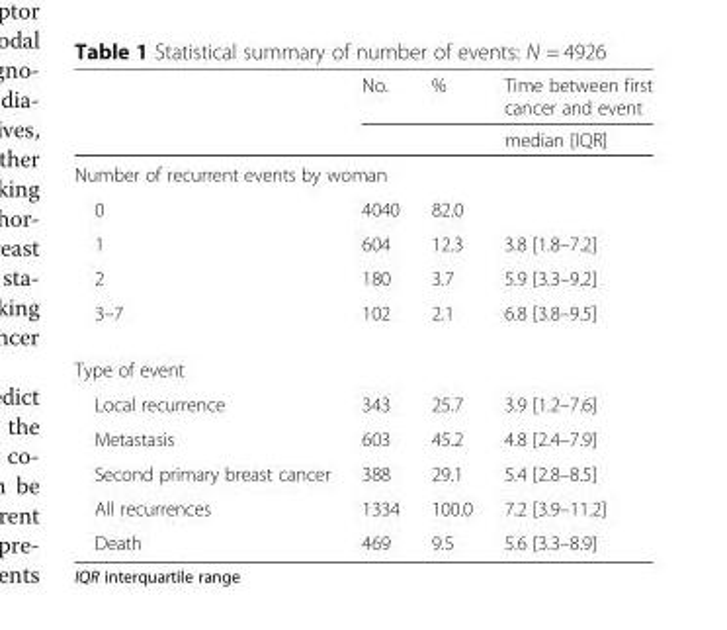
<table><thead><tr><td></td><td>No.</td><td>%</td><td>Time between first cancer and event</td></tr></thead><tbody><tr><td></td><td></td><td></td><td>median [IQR]</td></tr><tr><td colspan="4">Number of recurrent events by woman</td></tr><tr><td>0</td><td>4040</td><td>82.0</td><td></td></tr><tr><td>1</td><td>604</td><td>12.3</td><td>3.8 [1.8–7.2]</td></tr><tr><td>2</td><td>180</td><td>3.7</td><td>5.9 [3.3–9.2]</td></tr><tr><td>3–7</td><td>102</td><td>2.1</td><td>6.8 [3.8–9.5]</td></tr><tr><td colspan="4">Type of event</td></tr><tr><td>Local recurrence</td><td>343</td><td>25.7</td><td>3.9 [1.2–7.6]</td></tr><tr><td>Metastasis</td><td>603</td><td>45.2</td><td>4.8 [2.4–7.9]</td></tr><tr><td>Second primary breast cancer</td><td>388</td><td>29.1</td><td>5.4 [2.8–8.5]</td></tr><tr><td>All recurrences</td><td>1334</td><td>100.0</td><td>7.2 [3.9–11.2]</td></tr><tr><td>Death</td><td>469</td><td>9.5</td><td>5.6 [3.3–8.9]</td></tr></tbody></table>